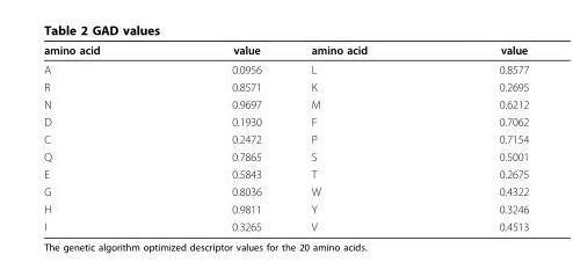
<table><thead><tr><td>amino acid</td><td>value</td><td>amino acid</td><td>value</td></tr></thead><tbody><tr><td>A</td><td>0.0956</td><td>L</td><td>0.8577</td></tr><tr><td>R</td><td>0.8571</td><td>K</td><td>0.2695</td></tr><tr><td>N</td><td>0.9697</td><td>M</td><td>0.6212</td></tr><tr><td>D</td><td>0.1930</td><td>F</td><td>0.7062</td></tr><tr><td>C</td><td>0.2472</td><td>P</td><td>0.7154</td></tr><tr><td>Q</td><td>0.7865</td><td>S</td><td>0.5001</td></tr><tr><td>E</td><td>0.5843</td><td>T</td><td>0.2675</td></tr><tr><td>G</td><td>0.8036</td><td>W</td><td>0.4322</td></tr><tr><td>H</td><td>0.9811</td><td>Y</td><td>0.3246</td></tr><tr><td>I</td><td>0.3265</td><td>V</td><td>0.4513</td></tr></tbody></table>